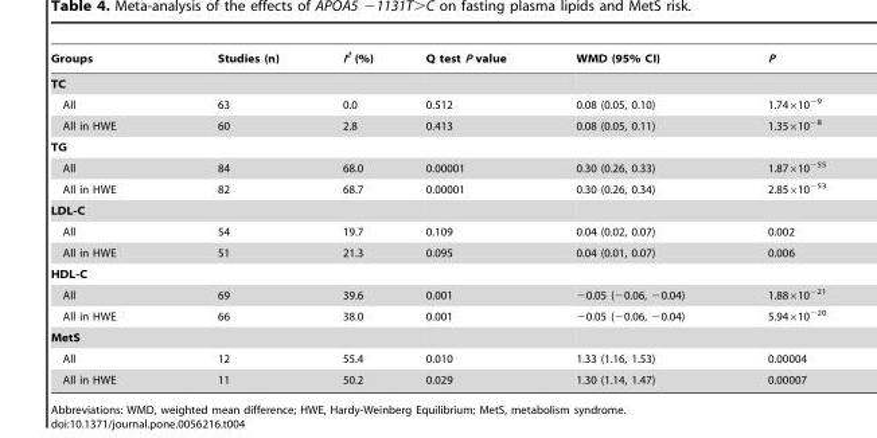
<table><thead><tr><td>Groups</td><td>Studies (n)</td><td>I<sup>2</sup> (%)</td><td>Q test P value</td><td>WMD (95% CI)</td><td>P</td></tr></thead><tbody><tr><td colspan="6">TC</td></tr><tr><td>All</td><td>63</td><td>0.0</td><td>0.512</td><td>0.08 (0.05, 0.10)</td><td>1.74×10<sup>−9</sup></td></tr><tr><td>All in HWE</td><td>60</td><td>2.8</td><td>0.413</td><td>0.08 (0.05, 0.11)</td><td>1.35×10<sup>−8</sup></td></tr><tr><td colspan="6">TG</td></tr><tr><td>All</td><td>84</td><td>68.0</td><td>0.00001</td><td>0.30 (0.26, 0.33)</td><td>1.87×10<sup>−55</sup></td></tr><tr><td>All in HWE</td><td>82</td><td>68.7</td><td>0.00001</td><td>0.30 (0.26, 0.34)</td><td>2.85×10<sup>−53</sup></td></tr><tr><td colspan="6">LDL-C</td></tr><tr><td>All</td><td>54</td><td>19.7</td><td>0.109</td><td>0.04 (0.02, 0.07)</td><td>0.002</td></tr><tr><td>All in HWE</td><td>51</td><td>21.3</td><td>0.095</td><td>0.04 (0.01, 0.07)</td><td>0.006</td></tr><tr><td colspan="6">HDL-C</td></tr><tr><td>All</td><td>69</td><td>39.6</td><td>0.001</td><td>−0.05 (−0.06, −0.04)</td><td>1.88×10<sup>−21</sup></td></tr><tr><td>All in HWE</td><td>66</td><td>38.0</td><td>0.001</td><td>−0.05 (−0.06, −0.04)</td><td>5.94×10<sup>−20</sup></td></tr><tr><td colspan="6">MetS</td></tr><tr><td>All</td><td>12</td><td>55.4</td><td>0.010</td><td>1.33 (1.16, 1.53)</td><td>0.00004</td></tr><tr><td>All in HWE</td><td>11</td><td>50.2</td><td>0.029</td><td>1.30 (1.14, 1.47)</td><td>0.00007</td></tr></tbody></table>